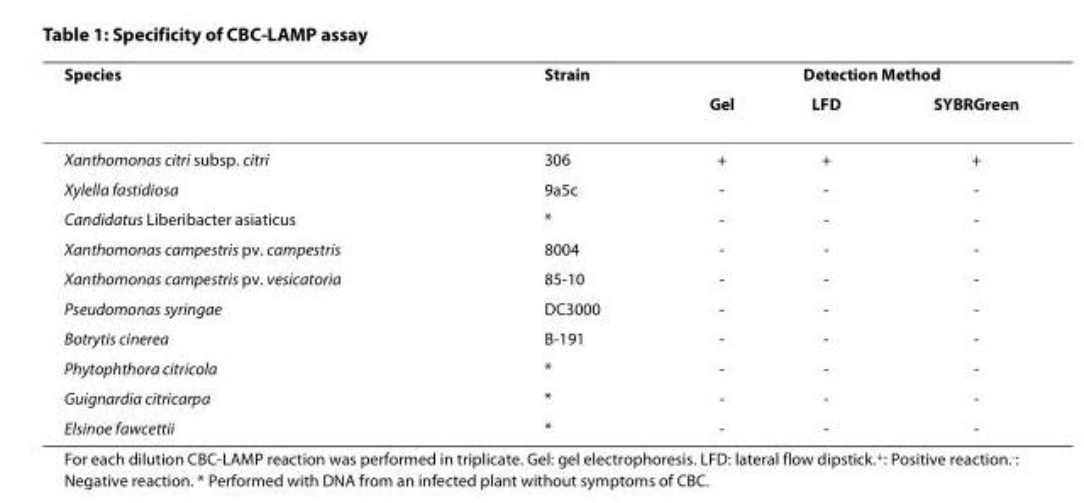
<table><thead><tr><td rowspan="2">Species</td><td rowspan="2">Strain</td><td colspan="3">Detection Method</td></tr><tr><td>Gel</td><td>LFD</td><td>SYBRGreen</td></tr></thead><tbody><tr><td>Xanthomonas citri subsp. citri</td><td>306</td><td>+</td><td>+</td><td>+</td></tr><tr><td>Xylella fastidiosa</td><td>9a5c</td><td>-</td><td>-</td><td>-</td></tr><tr><td>Candidatus Liberibacter asiaticus</td><td>*</td><td>-</td><td>-</td><td>-</td></tr><tr><td>Xanthomonas campestris pv. campestris</td><td>8004</td><td>-</td><td>-</td><td>-</td></tr><tr><td>Xanthomonas campestris pv. vesicatoria</td><td>85-10</td><td>-</td><td>-</td><td>-</td></tr><tr><td>Pseudomonas syringae</td><td>DC3000</td><td>-</td><td>-</td><td>-</td></tr><tr><td>Botrytis cinerea</td><td>B-191</td><td>-</td><td>-</td><td>-</td></tr><tr><td>Phytophthora citricola</td><td>*</td><td>-</td><td>-</td><td>-</td></tr><tr><td>Guignardia citricarpa</td><td>*</td><td>-</td><td>-</td><td>-</td></tr><tr><td>Elsinoe fawcettii</td><td>*</td><td>-</td><td>-</td><td>-</td></tr></tbody></table>